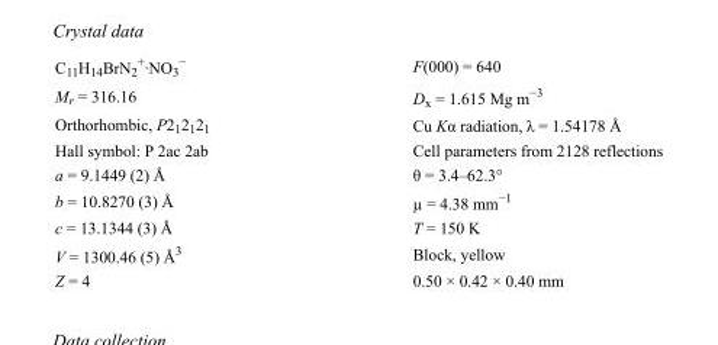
<table><tbody><tr><td>C<sub>11</sub>H<sub>14</sub>BrN<sub>2</sub> <sup>+</sup>·NO<sub>3</sub> <sup>−</sup></td><td>F(000) = 640</td></tr><tr><td>M<sub>r</sub> = 316.16</td><td>D<sub>x</sub> = 1.615 Mg m<sup>−3</sup></td></tr><tr><td>Orthorhombic, P2<sub>1</sub>2<sub>1</sub>2<sub>1</sub></td><td>Cu Kα radiation, λ = 1.54178 Å</td></tr><tr><td>Hall symbol: P 2ac 2ab</td><td>Cell parameters from 2128 reflections</td></tr><tr><td>a = 9.1449 (2) Å</td><td>θ = 3.4–62.3°</td></tr><tr><td>b = 10.8270 (3) Å</td><td>µ = 4.38 mm<sup>−1</sup></td></tr><tr><td>c = 13.1344 (3) Å</td><td>T = 150 K</td></tr><tr><td>V = 1300.46 (5) Å<sup>3</sup></td><td>Block, yellow</td></tr><tr><td>Z = 4</td><td>0.50 × 0.42 × 0.40 mm</td></tr></tbody></table>